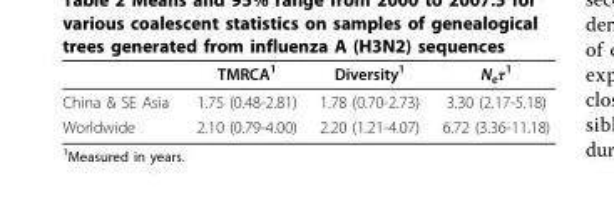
<table><thead><tr><td></td><td>TMRCA<sup>1</sup></td><td>Diversity<sup>1</sup></td><td>N<sub>e</sub>τ<sup>1</sup></td></tr></thead><tbody><tr><td>China &amp; SE Asia</td><td>1.75 (0.48-2.81)</td><td>1.78 (0.70-2.73)</td><td>3.30 (2.17-5.18)</td></tr><tr><td>Worldwide</td><td>2.10 (0.79-4.00)</td><td>2.20 (1.21-4.07)</td><td>6.72 (3.36-11.18)</td></tr></tbody></table>